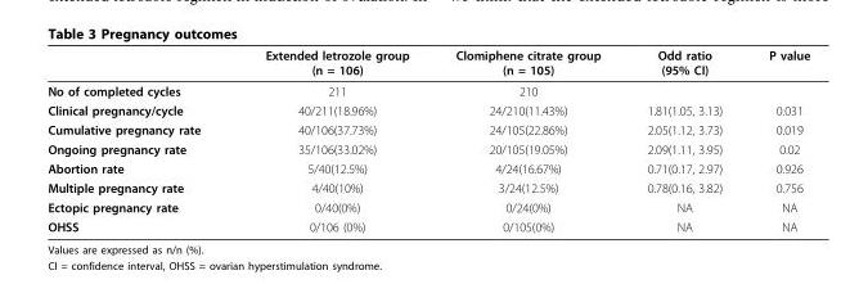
<table><thead><tr><td></td><td>Extended letrozole group (n = 106)</td><td>Clomiphene citrate group (n = 105)</td><td>Odd ratio (95% CI)</td><td>P value</td></tr></thead><tbody><tr><td>No of completed cycles</td><td>211</td><td>210</td><td></td><td></td></tr><tr><td>Clinical pregnancy/cycle</td><td>40/211(18.96%)</td><td>24/210(11.43%)</td><td>1.81(1.05, 3.13)</td><td>0.031</td></tr><tr><td>Cumulative pregnancy rate</td><td>40/106(37.73%)</td><td>24/105(22.86%)</td><td>2.05(1.12, 3.73)</td><td>0.019</td></tr><tr><td>Ongoing pregnancy rate</td><td>35/106(33.02%)</td><td>20/105(19.05%)</td><td>2.09(1.11, 3.95)</td><td>0.02</td></tr><tr><td>Abortion rate</td><td>5/40(12.5%)</td><td>4/24(16.67%)</td><td>0.71(0.17, 2.97)</td><td>0.926</td></tr><tr><td>Multiple pregnancy rate</td><td>4/40(10%)</td><td>3/24(12.5%)</td><td>0.78(0.16, 3.82)</td><td>0.756</td></tr><tr><td>Ectopic pregnancy rate</td><td>0/40(0%)</td><td>0/24(0%)</td><td>NA</td><td>NA</td></tr><tr><td>OHSS</td><td>0/106 (0%)</td><td>0/105(0%)</td><td>NA</td><td>NA</td></tr></tbody></table>